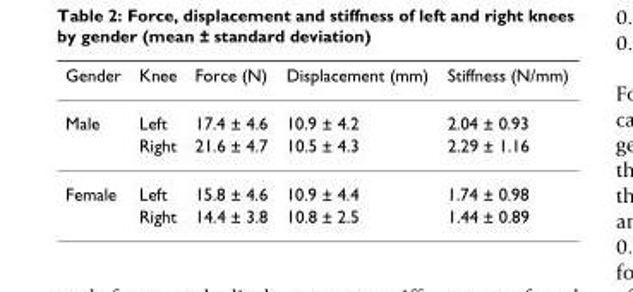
<table><thead><tr><td>Gender</td><td>Knee</td><td>Force (N)</td><td>Displacement (mm)</td><td>Stiffness (N/mm)</td></tr></thead><tbody><tr><td rowspan="2">Male</td><td>Left</td><td>17.4 ± 4.6</td><td>10.9 ± 4.2</td><td>2.04 ± 0.93</td></tr><tr><td>Right</td><td>21.6 ± 4.7</td><td>10.5 ± 4.3</td><td>2.29 ± 1.16</td></tr><tr><td rowspan="2">Female</td><td>Left</td><td>15.8 ± 4.6</td><td>10.9 ± 4.4</td><td>1.74 ± 0.98</td></tr><tr><td>Right</td><td>14.4 ± 3.8</td><td>10.8 ± 2.5</td><td>1.44 ± 0.89</td></tr></tbody></table>